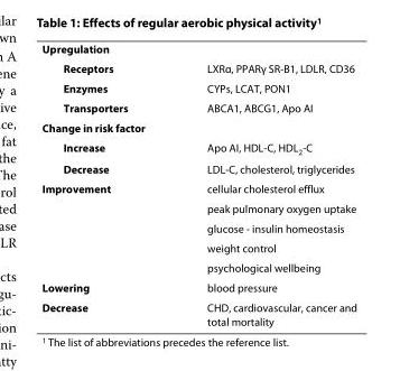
<table><tbody><tr><td colspan="2">Upregulation</td></tr><tr><td>Receptors</td><td>LXRα, PPARγ SR-B1, LDLR, CD36</td></tr><tr><td>Enzymes</td><td>CYPs, LCAT, PON1</td></tr><tr><td>Transporters</td><td>ABCA1, ABCG1, Apo AI</td></tr><tr><td colspan="2">Change in risk factor</td></tr><tr><td>Increase</td><td>Apo AI, HDL-C, HDL<sub>2</sub>-C</td></tr><tr><td>Decrease</td><td>LDL-C, cholesterol, triglycerides</td></tr><tr><td rowspan="5">Improvement</td><td>cellular cholesterol efflux</td></tr><tr><td>peak pulmonary oxygen uptake</td></tr><tr><td>glucose - insulin homeostasis</td></tr><tr><td>weight control</td></tr><tr><td>psychological wellbeing</td></tr><tr><td>Lowering</td><td>blood pressure</td></tr><tr><td>Decrease</td><td>CHD, cardiovascular, cancer and total mortality</td></tr></tbody></table>